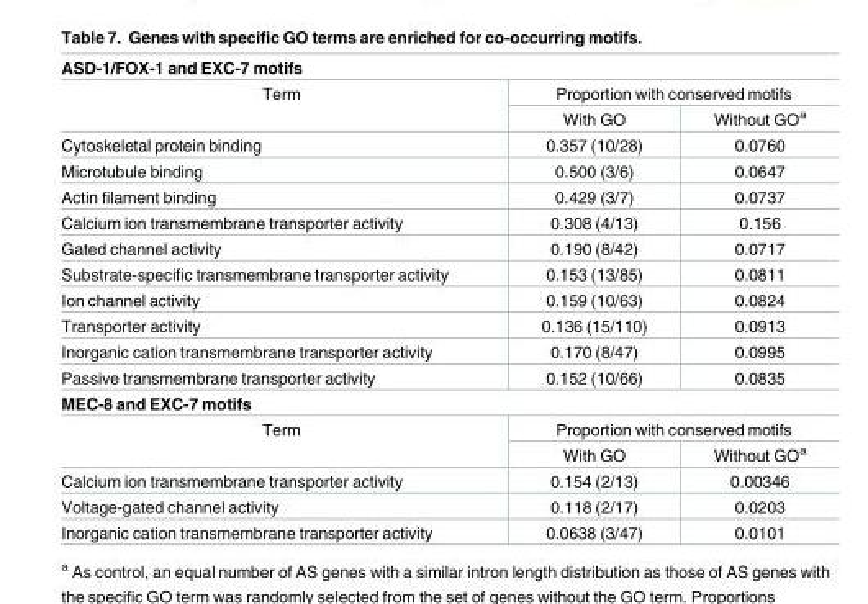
<table><tbody><tr><td colspan="3">ASD-1/FOX-1 and EXC-7 motifs</td></tr><tr><td rowspan="2">Term</td><td colspan="2">Proportion with conserved motifs</td></tr><tr><td>With GO</td><td>Without GO<sup>a</sup></td></tr><tr><td>Cytoskeletal protein binding</td><td>0.357 (10/28)</td><td>0.0760</td></tr><tr><td>Microtubule binding</td><td>0.500 (3/6)</td><td>0.0647</td></tr><tr><td>Actin filament binding</td><td>0.429 (3/7)</td><td>0.0737</td></tr><tr><td>Calcium ion transmembrane transporter activity</td><td>0.308 (4/13)</td><td>0.156</td></tr><tr><td>Gated channel activity</td><td>0.190 (8/42)</td><td>0.0717</td></tr><tr><td>Substrate-specific transmembrane transporter activity</td><td>0.153 (13/85)</td><td>0.0811</td></tr><tr><td>Ion channel activity</td><td>0.159 (10/63)</td><td>0.0824</td></tr><tr><td>Transporter activity</td><td>0.136 (15/110)</td><td>0.0913</td></tr><tr><td>Inorganic cation transmembrane transporter activity</td><td>0.170 (8/47)</td><td>0.0995</td></tr><tr><td>Passive transmembrane transporter activity</td><td>0.152 (10/66)</td><td>0.0835</td></tr><tr><td colspan="3">MEC-8 and EXC-7 motifs</td></tr><tr><td rowspan="2">Term</td><td colspan="2">Proportion with conserved motifs</td></tr><tr><td>With GO</td><td>Without GO<sup>a</sup></td></tr><tr><td>Calcium ion transmembrane transporter activity</td><td>0.154 (2/13)</td><td>0.00346</td></tr><tr><td>Voltage-gated channel activity</td><td>0.118 (2/17)</td><td>0.0203</td></tr><tr><td>Inorganic cation transmembrane transporter activity</td><td>0.0638 (3/47)</td><td>0.0101</td></tr></tbody></table>